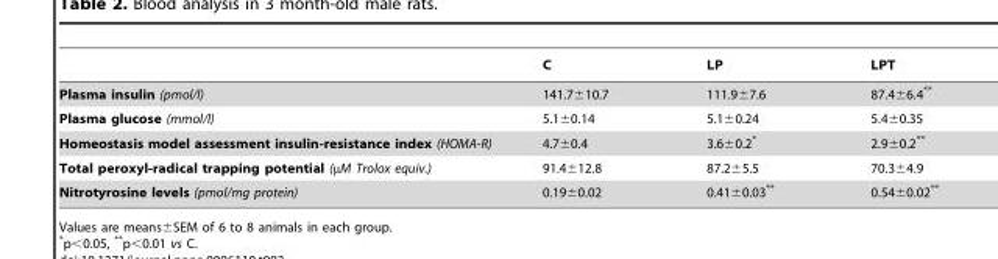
<table><thead><tr><td></td><td>C</td><td>LP</td><td>LPT</td></tr></thead><tbody><tr><td>Plasma insulin (pmol/l)</td><td>141.7±10.7</td><td>111.9±7.6</td><td>87.4±6.4**</td></tr><tr><td>Plasma glucose (mmol/l)</td><td>5.1±0.14</td><td>5.1±0.24</td><td>5.4±0.35</td></tr><tr><td>Homeostasis model assessment insulin-resistance index (HOMA-R)</td><td>4.7±0.4</td><td>3.6±0.2*</td><td>2.9±0.2**</td></tr><tr><td>Total peroxyl-radical trapping potential (µM Trolox equiv.)</td><td>91.4±12.8</td><td>87.2±5.5</td><td>70.3±4.9</td></tr><tr><td>Nitrotyrosine levels (pmol/mg protein)</td><td>0.19±0.02</td><td>0.41±0.03**</td><td>0.54±0.02**</td></tr></tbody></table>